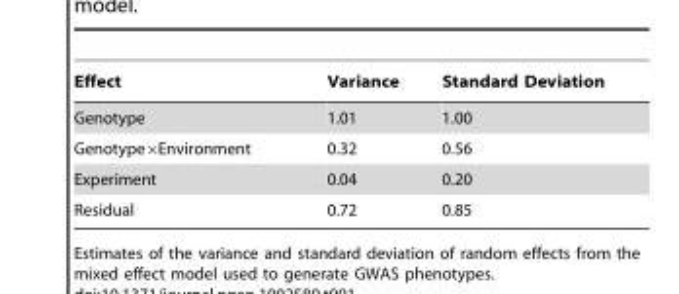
<table><thead><tr><td>Effect</td><td>Variance</td><td>Standard Deviation</td></tr></thead><tbody><tr><td>Genotype</td><td>1.01</td><td>1.00</td></tr><tr><td>Genotype×Environment</td><td>0.32</td><td>0.56</td></tr><tr><td>Experiment</td><td>0.04</td><td>0.20</td></tr><tr><td>Residual</td><td>0.72</td><td>0.85</td></tr></tbody></table>